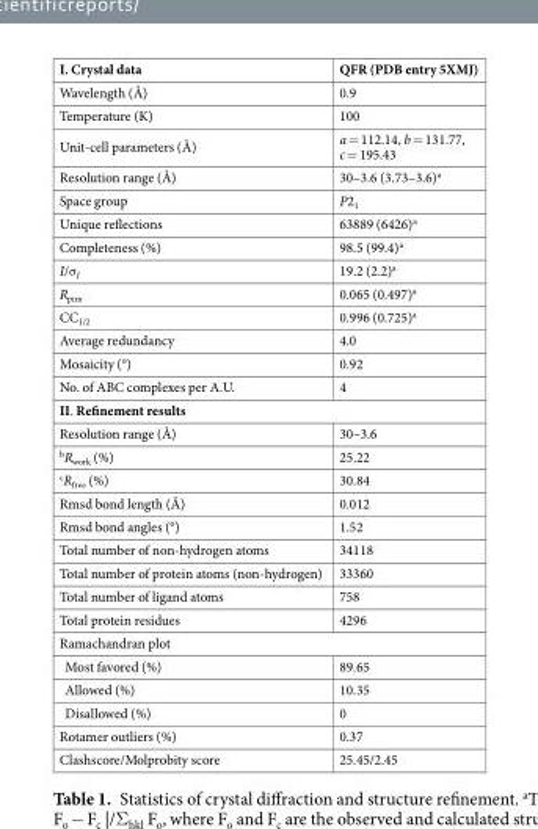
<table><tbody><tr><td>I. Crystal data</td><td>QFR (PDB entry 5XMJ)</td></tr><tr><td>Wavelength (Å)</td><td>0.9</td></tr><tr><td>Temperature (K)</td><td>100</td></tr><tr><td>Unit-cell parameters (Å)</td><td>a = 112.14, b = 131.77, c = 195.43</td></tr><tr><td>Resolution range (Å)</td><td>30–3.6 (3.73–3.6)<sup>a</sup></td></tr><tr><td>Space group</td><td>P2<sub>1</sub></td></tr><tr><td>Unique reflections</td><td>63889 (6426)<sup>a</sup></td></tr><tr><td>Completeness (%)</td><td>98.5 (99.4)<sup>a</sup></td></tr><tr><td>I/σ<sub>I</sub></td><td>19.2 (2.2)<sup>a</sup></td></tr><tr><td>R<sub>pim</sub></td><td>0.065 (0.497)<sup>a</sup></td></tr><tr><td>CC<sub>1/2</sub></td><td>0.996 (0.725)<sup>a</sup></td></tr><tr><td>Average redundancy</td><td>4.0</td></tr><tr><td>Mosaicity (°)</td><td>0.92</td></tr><tr><td>No. of ABC complexes per A.U.</td><td>4</td></tr><tr><td colspan="2">II. Refinement results</td></tr><tr><td>Resolution range (Å)</td><td>30–3.6</td></tr><tr><td><sup>b</sup>R<sub>work</sub> (%)</td><td>25.22</td></tr><tr><td><sup>c</sup>R<sub>free</sub> (%)</td><td>30.84</td></tr><tr><td>Rmsd bond length (Å)</td><td>0.012</td></tr><tr><td>Rmsd bond angles (°)</td><td>1.52</td></tr><tr><td>Total number of non-hydrogen atoms</td><td>34118</td></tr><tr><td>Total number of protein atoms (non-hydrogen)</td><td>33360</td></tr><tr><td>Total number of ligand atoms</td><td>758</td></tr><tr><td>Total protein residues</td><td>4296</td></tr><tr><td colspan="2">Ramachandran plot</td></tr><tr><td>Most favored (%)</td><td>89.65</td></tr><tr><td>Allowed (%)</td><td>10.35</td></tr><tr><td>Disallowed (%)</td><td>0</td></tr><tr><td>Rotamer outliers (%)</td><td>0.37</td></tr><tr><td>Clashscore/Molprobity score</td><td>25.45/2.45</td></tr></tbody></table>